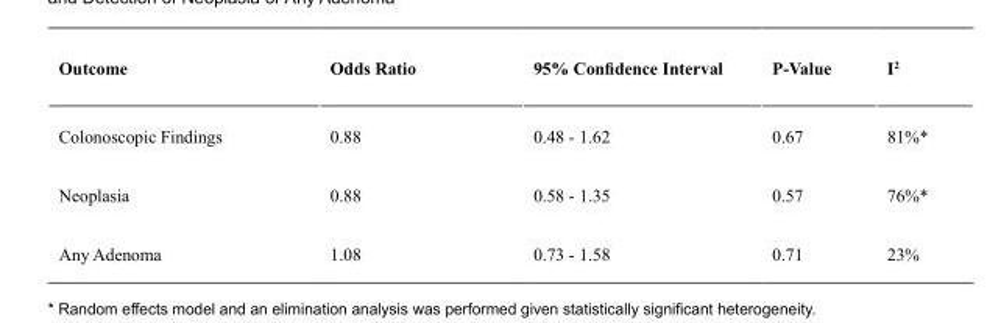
<table><thead><tr><td>Outcome</td><td>Odds Ratio</td><td>95% Confidence Interval</td><td>P-Value</td><td>I<sup>2</sup></td></tr></thead><tbody><tr><td>Colonoscopic Findings</td><td>0.88</td><td>0.48 - 1.62</td><td>0.67</td><td>81%*</td></tr><tr><td>Neoplasia</td><td>0.88</td><td>0.58 - 1.35</td><td>0.57</td><td>76%*</td></tr><tr><td>Any Adenoma</td><td>1.08</td><td>0.73 - 1.58</td><td>0.71</td><td>23%</td></tr></tbody></table>